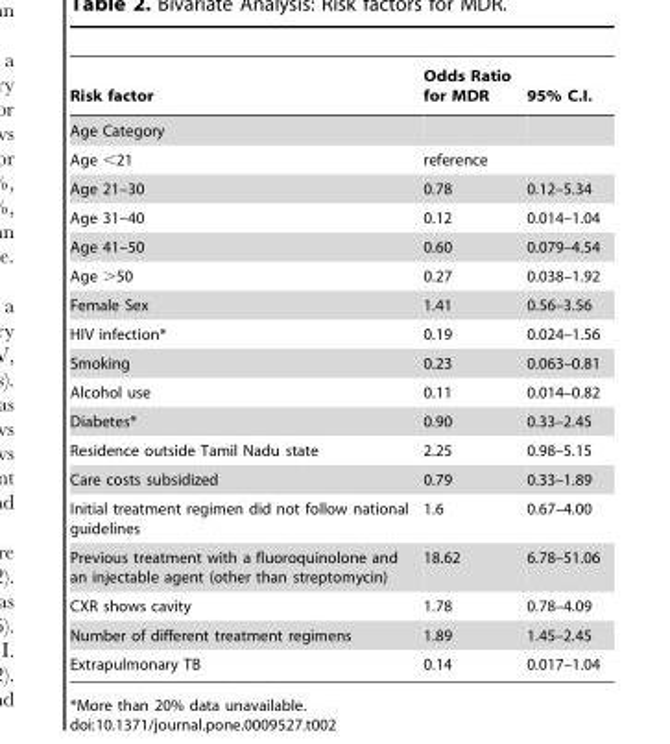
<table><thead><tr><td>Risk factor</td><td>Odds Ratio for MDR</td><td>95% C.I.</td></tr></thead><tbody><tr><td colspan="3">Age Category</td></tr><tr><td>Age &lt;21</td><td>reference</td><td></td></tr><tr><td>Age 21–30</td><td>0.78</td><td>0.12–5.34</td></tr><tr><td>Age 31–40</td><td>0.12</td><td>0.014–1.04</td></tr><tr><td>Age 41–50</td><td>0.60</td><td>0.079–4.54</td></tr><tr><td>Age &gt;50</td><td>0.27</td><td>0.038–1.92</td></tr><tr><td>Female Sex</td><td>1.41</td><td>0.56–3.56</td></tr><tr><td>HIV infection*</td><td>0.19</td><td>0.024–1.56</td></tr><tr><td>Smoking</td><td>0.23</td><td>0.063–0.81</td></tr><tr><td>Alcohol use</td><td>0.11</td><td>0.014–0.82</td></tr><tr><td>Diabetes*</td><td>0.90</td><td>0.33–2.45</td></tr><tr><td>Residence outside Tamil Nadu state</td><td>2.25</td><td>0.98–5.15</td></tr><tr><td>Care costs subsidized</td><td>0.79</td><td>0.33–1.89</td></tr><tr><td>Initial treatment regimen did not follow national guidelines</td><td>1.6</td><td>0.67–4.00</td></tr><tr><td>Previous treatment with a fluoroquinolone and an injectable agent (other than streptomycin)</td><td>18.62</td><td>6.78–51.06</td></tr><tr><td>CXR shows cavity</td><td>1.78</td><td>0.78–4.09</td></tr><tr><td>Number of different treatment regimens</td><td>1.89</td><td>1.45–2.45</td></tr><tr><td>Extrapulmonary TB</td><td>0.14</td><td>0.017–1.04</td></tr></tbody></table>